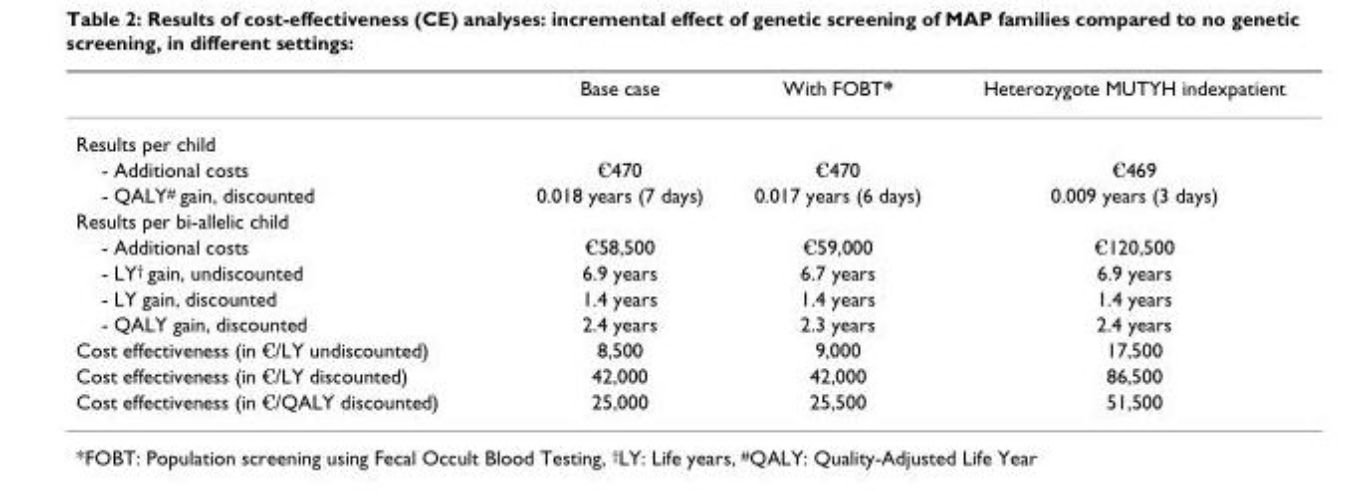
<table><thead><tr><td></td><td>Base case</td><td>With FOBT*</td><td>Heterozygote MUTYH indexpatient</td></tr></thead><tbody><tr><td colspan="4">Results per child</td></tr><tr><td>- Additional costs</td><td>€470</td><td>€470</td><td>€469</td></tr><tr><td>- QALY<sup>#</sup> gain, discounted</td><td>0.018 years (7 days)</td><td>0.017 years (6 days)</td><td>0.009 years (3 days)</td></tr><tr><td colspan="4">Results per bi-allelic child</td></tr><tr><td>- Additional costs</td><td>€58,500</td><td>€59,000</td><td>€120,500</td></tr><tr><td>- LY<sup>†</sup> gain, undiscounted</td><td>6.9 years</td><td>6.7 years</td><td>6.9 years</td></tr><tr><td>- LY gain, discounted</td><td>1.4 years</td><td>1.4 years</td><td>1.4 years</td></tr><tr><td>- QALY gain, discounted</td><td>2.4 years</td><td>2.3 years</td><td>2.4 years</td></tr><tr><td>Cost effectiveness (in €/LY undiscounted)</td><td>8,500</td><td>9,000</td><td>17,500</td></tr><tr><td>Cost effectiveness (in €/LY discounted)</td><td>42,000</td><td>42,000</td><td>86,500</td></tr><tr><td>Cost effectiveness (in €/QALY discounted)</td><td>25,000</td><td>25,500</td><td>51,500</td></tr></tbody></table>